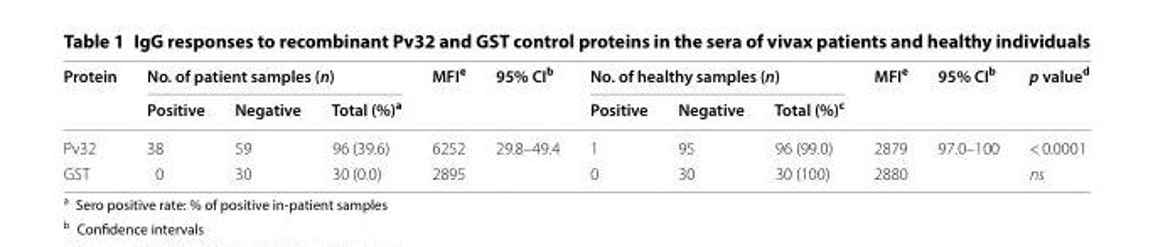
<table><thead><tr><td rowspan="2">Protein</td><td colspan="3">No. of patient samples (n)</td><td rowspan="2">MFI<sup>e</sup></td><td rowspan="2">95% CI<sup>b</sup></td><td colspan="3">No. of healthy samples (n)</td><td rowspan="2">MFI<sup>e</sup></td><td rowspan="2">95% CI<sup>b</sup></td><td rowspan="2">p value<sup>d</sup></td></tr><tr><td>Positive</td><td>Negative</td><td>Total (%)<sup>a</sup></td><td>Positive</td><td>Negative</td><td>Total (%)<sup>c</sup></td></tr></thead><tbody><tr><td>Pv32</td><td>38</td><td>59</td><td>96 (39.6)</td><td>6252</td><td>29.8–49.4</td><td>1</td><td>95</td><td>96 (99.0)</td><td>2879</td><td>97.0–100</td><td>&lt; 0.0001</td></tr><tr><td>GST</td><td>0</td><td>30</td><td>30 (0.0)</td><td>2895</td><td></td><td>0</td><td>30</td><td>30 (100)</td><td>2880</td><td></td><td>ns</td></tr></tbody></table>